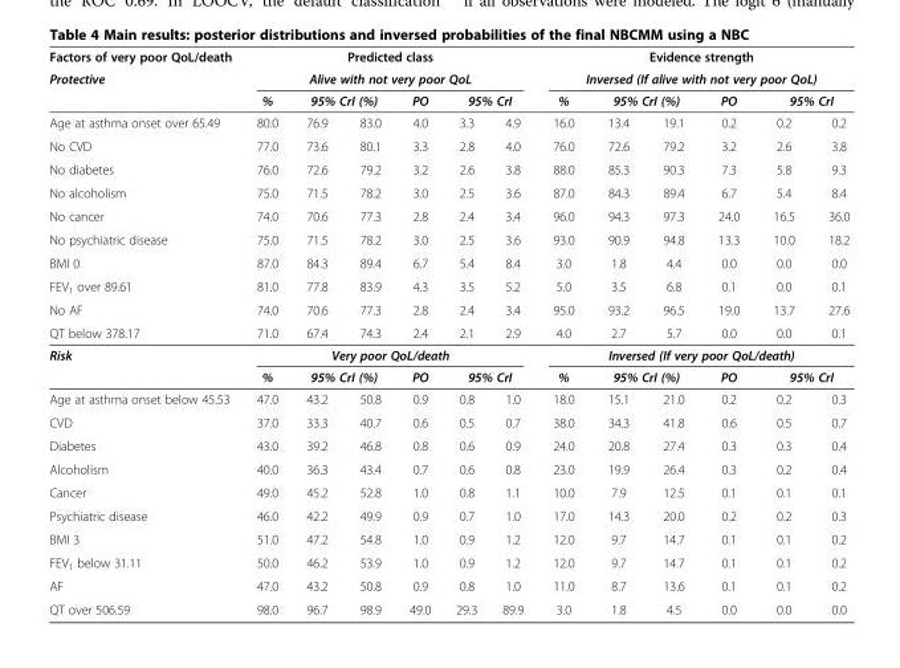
<table><thead><tr><td rowspan="4">Factors of very poor QoL/death Protective Age at asthma onset over 65.49</td><td rowspan="2" colspan="6">Predicted class Alive with not very poor QoL</td><td rowspan="2" colspan="6">Evidence strength Inversed (If alive with not very poor QoL)</td></tr><tr></tr><tr><td rowspan="2">% 80.0</td><td colspan="2">95% CrI (%)</td><td rowspan="2">PO 4.0</td><td colspan="2">95% CrI</td><td rowspan="2">% 16.0</td><td colspan="2">95% CrI (%)</td><td rowspan="2">PO 0.2</td><td colspan="2">95% CrI</td></tr><tr><td>76.9</td><td>83.0</td><td>3.3</td><td>4.9</td><td>13.4</td><td>19.1</td><td>0.2</td><td>0.2</td></tr></thead><tbody><tr><td>No CVD</td><td>77.0</td><td>73.6</td><td>80.1</td><td>3.3</td><td>2.8</td><td>4.0</td><td>76.0</td><td>72.6</td><td>79.2</td><td>3.2</td><td>2.6</td><td>3.8</td></tr><tr><td>No diabetes</td><td>76.0</td><td>72.6</td><td>79.2</td><td>3.2</td><td>2.6</td><td>3.8</td><td>88.0</td><td>85.3</td><td>90.3</td><td>7.3</td><td>5.8</td><td>9.3</td></tr><tr><td>No alcoholism</td><td>75.0</td><td>71.5</td><td>78.2</td><td>3.0</td><td>2.5</td><td>3.6</td><td>87.0</td><td>84.3</td><td>89.4</td><td>6.7</td><td>5.4</td><td>8.4</td></tr><tr><td>No cancer</td><td>74.0</td><td>70.6</td><td>77.3</td><td>2.8</td><td>2.4</td><td>3.4</td><td>96.0</td><td>94.3</td><td>97.3</td><td>24.0</td><td>16.5</td><td>36.0</td></tr><tr><td>No psychiatric disease</td><td>75.0</td><td>71.5</td><td>78.2</td><td>3.0</td><td>2.5</td><td>3.6</td><td>93.0</td><td>90.9</td><td>94.8</td><td>13.3</td><td>10.0</td><td>18.2</td></tr><tr><td>BMI 0</td><td>87.0</td><td>84.3</td><td>89.4</td><td>6.7</td><td>5.4</td><td>8.4</td><td>3.0</td><td>1.8</td><td>4.4</td><td>0.0</td><td>0.0</td><td>0.0</td></tr><tr><td>FEV<sub>1</sub> over 89.61</td><td>81.0</td><td>77.8</td><td>83.9</td><td>4.3</td><td>3.5</td><td>5.2</td><td>5.0</td><td>3.5</td><td>6.8</td><td>0.1</td><td>0.0</td><td>0.1</td></tr><tr><td>No AF</td><td>74.0</td><td>70.6</td><td>77.3</td><td>2.8</td><td>2.4</td><td>3.4</td><td>95.0</td><td>93.2</td><td>96.5</td><td>19.0</td><td>13.7</td><td>27.6</td></tr><tr><td>QT below 378.17</td><td>71.0</td><td>67.4</td><td>74.3</td><td>2.4</td><td>2.1</td><td>2.9</td><td>4.0</td><td>2.7</td><td>5.7</td><td>0.0</td><td>0.0</td><td>0.1</td></tr><tr><td rowspan="2">Risk</td><td colspan="6">Very poor QoL/death</td><td colspan="6">Inversed (If very poor QoL/death)</td></tr><tr><td>%</td><td colspan="2">95% CrI (%)</td><td>PO</td><td colspan="2">95% CrI</td><td>%</td><td colspan="2">95% CrI (%)</td><td>PO</td><td colspan="2">95% CrI</td></tr><tr><td>Age at asthma onset below 45.53</td><td>47.0</td><td>43.2</td><td>50.8</td><td>0.9</td><td>0.8</td><td>1.0</td><td>18.0</td><td>15.1</td><td>21.0</td><td>0.2</td><td>0.2</td><td>0.3</td></tr><tr><td>CVD</td><td>37.0</td><td>33.3</td><td>40.7</td><td>0.6</td><td>0.5</td><td>0.7</td><td>38.0</td><td>34.3</td><td>41.8</td><td>0.6</td><td>0.5</td><td>0.7</td></tr><tr><td>Diabetes</td><td>43.0</td><td>39.2</td><td>46.8</td><td>0.8</td><td>0.6</td><td>0.9</td><td>24.0</td><td>20.8</td><td>27.4</td><td>0.3</td><td>0.3</td><td>0.4</td></tr><tr><td>Alcoholism</td><td>40.0</td><td>36.3</td><td>43.4</td><td>0.7</td><td>0.6</td><td>0.8</td><td>23.0</td><td>19.9</td><td>26.4</td><td>0.3</td><td>0.2</td><td>0.4</td></tr><tr><td>Cancer</td><td>49.0</td><td>45.2</td><td>52.8</td><td>1.0</td><td>0.8</td><td>1.1</td><td>10.0</td><td>7.9</td><td>12.5</td><td>0.1</td><td>0.1</td><td>0.1</td></tr><tr><td>Psychiatric disease</td><td>46.0</td><td>42.2</td><td>49.9</td><td>0.9</td><td>0.7</td><td>1.0</td><td>17.0</td><td>14.3</td><td>20.0</td><td>0.2</td><td>0.2</td><td>0.3</td></tr><tr><td>BMI 3</td><td>51.0</td><td>47.2</td><td>54.8</td><td>1.0</td><td>0.9</td><td>1.2</td><td>12.0</td><td>9.7</td><td>14.7</td><td>0.1</td><td>0.1</td><td>0.2</td></tr><tr><td>FEV<sub>1</sub> below 31.11</td><td>50.0</td><td>46.2</td><td>53.9</td><td>1.0</td><td>0.9</td><td>1.2</td><td>12.0</td><td>9.7</td><td>14.7</td><td>0.1</td><td>0.1</td><td>0.2</td></tr><tr><td>AF</td><td>47.0</td><td>43.2</td><td>50.8</td><td>0.9</td><td>0.8</td><td>1.0</td><td>11.0</td><td>8.7</td><td>13.6</td><td>0.1</td><td>0.1</td><td>0.2</td></tr><tr><td>QT over 506.59</td><td>98.0</td><td>96.7</td><td>98.9</td><td>49.0</td><td>29.3</td><td>89.9</td><td>3.0</td><td>1.8</td><td>4.5</td><td>0.0</td><td>0.0</td><td>0.0</td></tr></tbody></table>